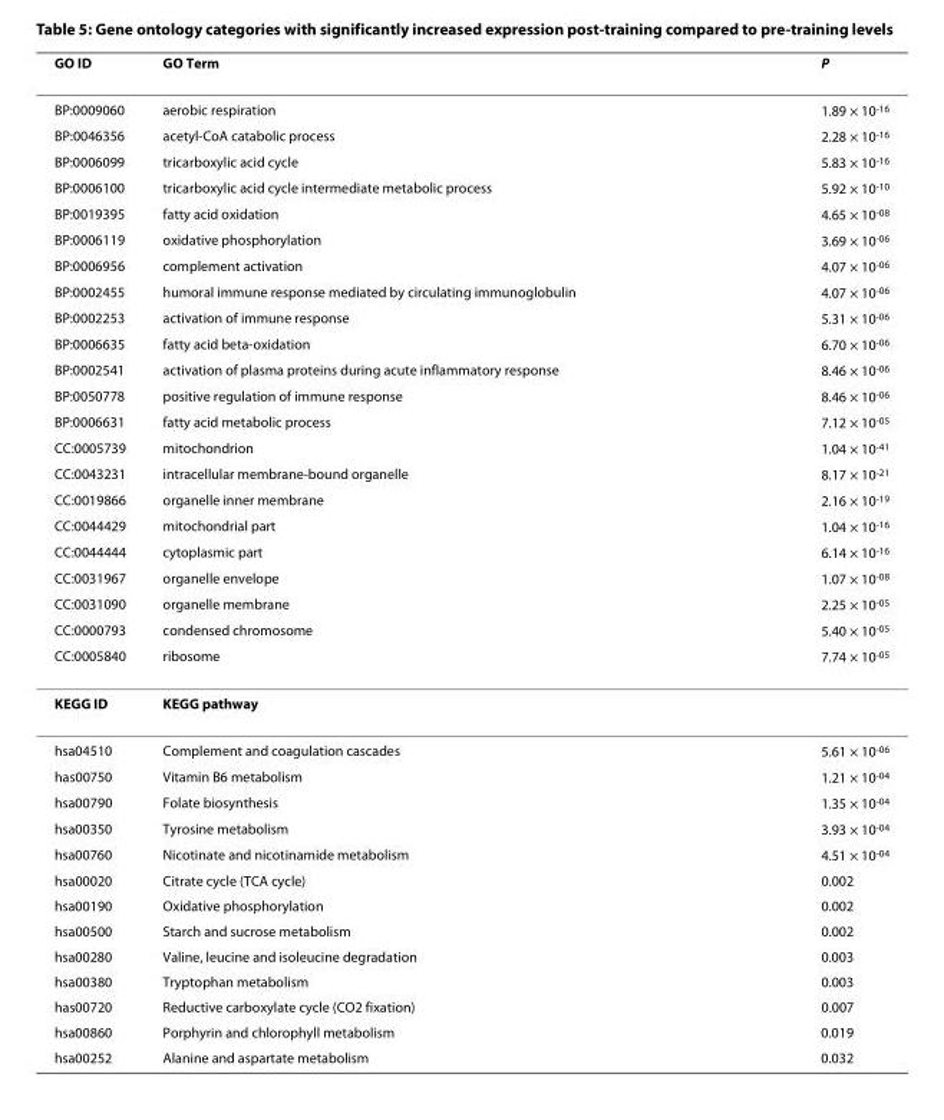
<table><thead><tr><td>GO ID</td><td>GO Term</td><td>P</td></tr></thead><tbody><tr><td>BP:0009060</td><td>aerobic respiration</td><td>1.89 × 10<sup>-16</sup></td></tr><tr><td>BP:0046356</td><td>acetyl-CoA catabolic process</td><td>2.28 × 10<sup>-16</sup></td></tr><tr><td>BP:0006099</td><td>tricarboxylic acid cycle</td><td>5.83 × 10<sup>-16</sup></td></tr><tr><td>BP:0006100</td><td>tricarboxylic acid cycle intermediate metabolic process</td><td>5.92 × 10<sup>-10</sup></td></tr><tr><td>BP:0019395</td><td>fatty acid oxidation</td><td>4.65 × 10<sup>-08</sup></td></tr><tr><td>BP:0006119</td><td>oxidative phosphorylation</td><td>3.69 × 10<sup>-06</sup></td></tr><tr><td>BP:0006956</td><td>complement activation</td><td>4.07 × 10<sup>-06</sup></td></tr><tr><td>BP:0002455</td><td>humoral immune response mediated by circulating immunoglobulin</td><td>4.07 × 10<sup>-06</sup></td></tr><tr><td>BP:0002253</td><td>activation of immune response</td><td>5.31 × 10<sup>-06</sup></td></tr><tr><td>BP:0006635</td><td>fatty acid beta-oxidation</td><td>6.70 × 10<sup>-06</sup></td></tr><tr><td>BP:0002541</td><td>activation of plasma proteins during acute inflammatory response</td><td>8.46 × 10<sup>-06</sup></td></tr><tr><td>BP:0050778</td><td>positive regulation of immune response</td><td>8.46 × 10<sup>-06</sup></td></tr><tr><td>BP:0006631</td><td>fatty acid metabolic process</td><td>7.12 × 10<sup>-05</sup></td></tr><tr><td>CC:0005739</td><td>mitochondrion</td><td>1.04 × 10<sup>-41</sup></td></tr><tr><td>CC:0043231</td><td>intracellular membrane-bound organelle</td><td>8.17 × 10<sup>-21</sup></td></tr><tr><td>CC:0019866</td><td>organelle inner membrane</td><td>2.16 × 10<sup>-19</sup></td></tr><tr><td>CC:0044429</td><td>mitochondrial part</td><td>1.04 × 10<sup>-16</sup></td></tr><tr><td>CC:0044444</td><td>cytoplasmic part</td><td>6.14 × 10<sup>-16</sup></td></tr><tr><td>CC:0031967</td><td>organelle envelope</td><td>1.07 × 10<sup>-08</sup></td></tr><tr><td>CC:0031090</td><td>organelle membrane</td><td>2.25 × 10<sup>-05</sup></td></tr><tr><td>CC:0000793</td><td>condensed chromosome</td><td>5.40 × 10<sup>-05</sup></td></tr><tr><td>CC:0005840</td><td>ribosome</td><td>7.74 × 10<sup>-05</sup></td></tr><tr><td>KEGG ID</td><td>KEGG pathway</td><td></td></tr><tr><td>hsa04510</td><td>Complement and coagulation cascades</td><td>5.61 × 10<sup>-06</sup></td></tr><tr><td>has00750</td><td>Vitamin B6 metabolism</td><td>1.21 × 10<sup>-04</sup></td></tr><tr><td>hsa00790</td><td>Folate biosynthesis</td><td>1.35 × 10<sup>-04</sup></td></tr><tr><td>hsa00350</td><td>Tyrosine metabolism</td><td>3.93 × 10<sup>-04</sup></td></tr><tr><td>hsa00760</td><td>Nicotinate and nicotinamide metabolism</td><td>4.51 × 10<sup>-04</sup></td></tr><tr><td>hsa00020</td><td>Citrate cycle (TCA cycle)</td><td>0.002</td></tr><tr><td>hsa00190</td><td>Oxidative phosphorylation</td><td>0.002</td></tr><tr><td>hsa00500</td><td>Starch and sucrose metabolism</td><td>0.002</td></tr><tr><td>hsa00280</td><td>Valine, leucine and isoleucine degradation</td><td>0.003</td></tr><tr><td>hsa00380</td><td>Tryptophan metabolism</td><td>0.003</td></tr><tr><td>has00720</td><td>Reductive carboxylate cycle (CO2 fixation)</td><td>0.007</td></tr><tr><td>hsa00860</td><td>Porphyrin and chlorophyll metabolism</td><td>0.019</td></tr><tr><td>hsa00252</td><td>Alanine and aspartate metabolism</td><td>0.032</td></tr></tbody></table>